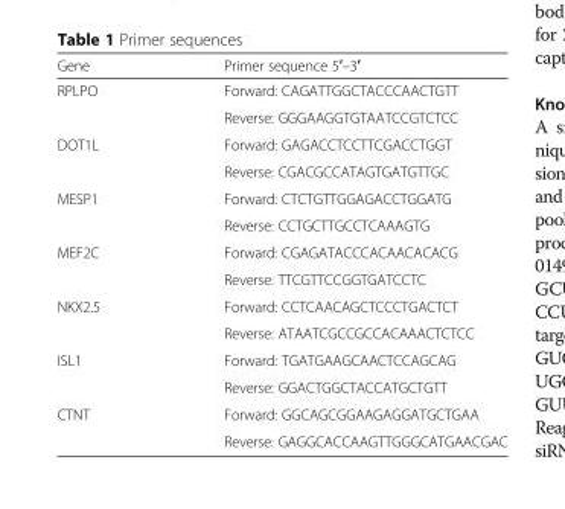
<table><thead><tr><td>Gene</td><td>Primer sequence 5′–3′</td></tr></thead><tbody><tr><td rowspan="2">RPLPO</td><td>Forward: CAGATTGGCTACCCAACTGTT</td></tr><tr><td>Reverse: GGGAAGGTGTAATCCGTCTCC</td></tr><tr><td rowspan="2">DOT1L</td><td>Forward: GAGACCTCCTTCGACCTGGT</td></tr><tr><td>Reverse: CGACGCCATAGTGATGTTGC</td></tr><tr><td rowspan="2">MESP1</td><td>Forward: CTCTGTTGGAGACCTGGATG</td></tr><tr><td>Reverse: CCTGCTTGCCTCAAAGTG</td></tr><tr><td rowspan="2">MEF2C</td><td>Forward: CGAGATACCCACAACACACG</td></tr><tr><td>Reverse: TTCGTTCCGGTGATCCTC</td></tr><tr><td rowspan="2">NKX2.5</td><td>Forward: CCTCAACAGCTCCCTGACTCT</td></tr><tr><td>Reverse: ATAATCGCCGCCACAAACTCTCC</td></tr><tr><td rowspan="2">ISL1</td><td>Forward: TGATGAAGCAACTCCAGCAG</td></tr><tr><td>Reverse: GGACTGGCTACCATGCTGTT</td></tr><tr><td rowspan="2">CTNT</td><td>Forward: GGCAGCGGAAGAGGATGCTGAA</td></tr><tr><td>Reverse: GAGGCACCAAGTTGGGCATGAACGAC</td></tr></tbody></table>